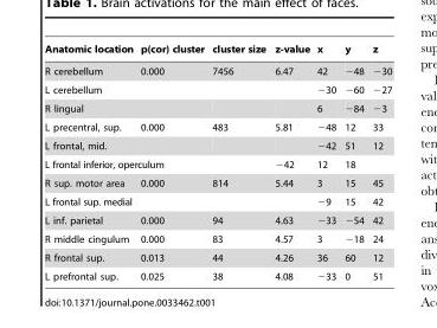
<table><thead><tr><td>Anatomic location</td><td>p(cor) cluster</td><td>cluster size</td><td>z-value</td><td>x</td><td>y</td><td>z</td></tr></thead><tbody><tr><td>R cerebellum</td><td>0.000</td><td>7456</td><td>6.47</td><td>42</td><td>−48</td><td>−30</td></tr><tr><td>L cerebellum</td><td></td><td></td><td></td><td>−30</td><td>−60</td><td>−27</td></tr><tr><td>R lingual</td><td></td><td></td><td></td><td>6</td><td>−84</td><td>−3</td></tr><tr><td>L precentral, sup.</td><td>0.000</td><td>483</td><td>5.81</td><td>−48</td><td>12</td><td>33</td></tr><tr><td>L frontal, mid.</td><td></td><td></td><td></td><td>−42</td><td>51</td><td>12</td></tr><tr><td colspan="2">L frontal inferior, operculum</td><td></td><td>−42</td><td>12</td><td>18</td><td></td></tr><tr><td>R sup. motor area</td><td>0.000</td><td>814</td><td>5.44</td><td>3</td><td>15</td><td>45</td></tr><tr><td>L frontal sup. medial</td><td></td><td></td><td></td><td>−9</td><td>15</td><td>42</td></tr><tr><td>L inf. parietal</td><td>0.000</td><td>94</td><td>4.63</td><td>−33</td><td>−54</td><td>42</td></tr><tr><td>R middle cingulum</td><td>0.000</td><td>83</td><td>4.57</td><td>3</td><td>−18</td><td>24</td></tr><tr><td>R frontal sup.</td><td>0.013</td><td>44</td><td>4.26</td><td>36</td><td>60</td><td>12</td></tr><tr><td>L prefrontal sup.</td><td>0.025</td><td>38</td><td>4.08</td><td>−33</td><td>0</td><td>51</td></tr></tbody></table>